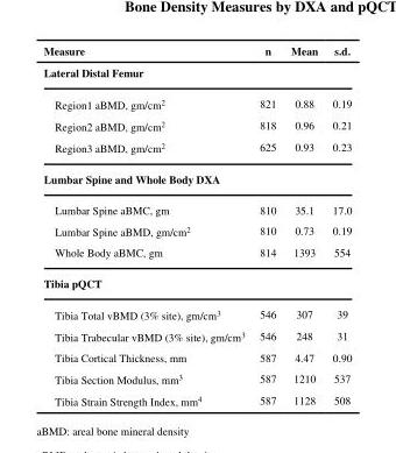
<table><thead><tr><td>Measure</td><td>n</td><td>Mean</td><td>s.d.</td></tr></thead><tbody><tr><td colspan="4">Lateral Distal Femur</td></tr><tr><td>Region1 aBMD, gm/cm<sup>2</sup></td><td>821</td><td>0.88</td><td>0.19</td></tr><tr><td>Region2 aBMD, gm/cm<sup>2</sup></td><td>818</td><td>0.96</td><td>0.21</td></tr><tr><td>Region3 aBMD, gm/cm<sup>2</sup></td><td>625</td><td>0.93</td><td>0.23</td></tr><tr><td colspan="4">Lumbar Spine and Whole Body DXA</td></tr><tr><td>Lumbar Spine aBMC, gm</td><td>810</td><td>35.1</td><td>17.0</td></tr><tr><td>Lumbar Spine aBMD, gm/cm<sup>2</sup></td><td>810</td><td>0.73</td><td>0.19</td></tr><tr><td>Whole Body aBMC, gm</td><td>814</td><td>1393</td><td>554</td></tr><tr><td colspan="4">Tibia pQCT</td></tr><tr><td>Tibia Total vBMD (3% site), gm/cm<sup>3</sup></td><td>546</td><td>307</td><td>39</td></tr><tr><td>Tibia Trabecular vBMD (3% site), gm/cm<sup>3</sup></td><td>546</td><td>248</td><td>31</td></tr><tr><td>Tibia Cortical Thickness, mm</td><td>587</td><td>4.47</td><td>0.90</td></tr><tr><td>Tibia Section Modulus, mm<sup>3</sup></td><td>587</td><td>1210</td><td>537</td></tr><tr><td>Tibia Strain Strength Index, mm<sup>4</sup></td><td>587</td><td>1128</td><td>508</td></tr></tbody></table>